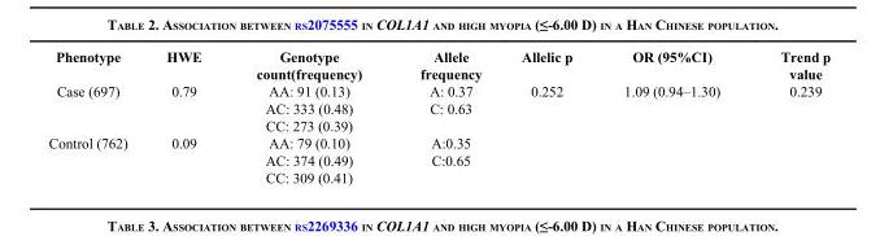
<table><thead><tr><td>Phenotype</td><td>HWE</td><td>Genotype count(frequency)</td><td>Allele frequency</td><td>Allelic p</td><td>OR (95%CI)</td><td>Trend p value</td></tr></thead><tbody><tr><td rowspan="3">Case (697)</td><td>0.79</td><td>AA: 91 (0.13)</td><td>A: 0.37</td><td>0.252</td><td>1.09 (0.94–1.30)</td><td>0.239</td></tr><tr><td></td><td>AC: 333 (0.48)</td><td>C: 0.63</td><td></td><td></td><td></td></tr><tr><td></td><td>CC: 273 (0.39)</td><td></td><td></td><td></td><td></td></tr><tr><td rowspan="3">Control (762)</td><td>0.09</td><td>AA: 79 (0.10)</td><td>A:0.35</td><td></td><td></td><td></td></tr><tr><td></td><td>AC: 374 (0.49)</td><td>C:0.65</td><td></td><td></td><td></td></tr><tr><td></td><td>CC: 309 (0.41)</td><td></td><td></td><td></td><td></td></tr></tbody></table>